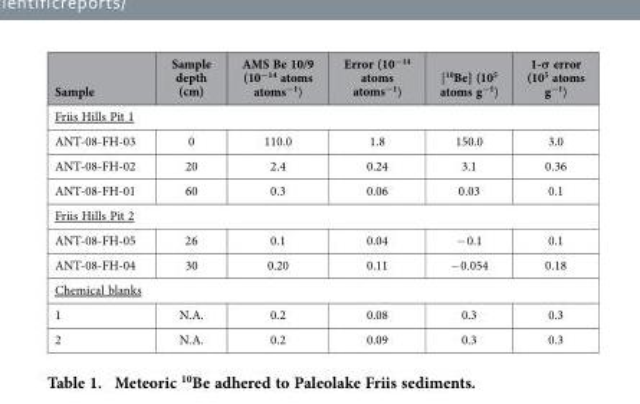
<table><thead><tr><td>Sample</td><td>Sample depth (cm)</td><td>AMS Be 10/9 (10<sup>−14</sup> atoms atoms<sup>−1</sup>)</td><td>Error (10<sup>−14</sup> atoms atoms<sup>−1</sup>)</td><td>[<sup>10</sup>Be] (10<sup>5</sup> atoms g<sup>−1</sup>)</td><td>1-σ error (10<sup>5</sup> atoms g<sup>−1</sup>)</td></tr></thead><tbody><tr><td colspan="6">Friis Hills Pit 1</td></tr><tr><td>ANT-08-FH-03</td><td>0</td><td>110.0</td><td>1.8</td><td>150.0</td><td>3.0</td></tr><tr><td>ANT-08-FH-02</td><td>20</td><td>2.4</td><td>0.24</td><td>3.1</td><td>0.36</td></tr><tr><td>ANT-08-FH-01</td><td>60</td><td>0.3</td><td>0.06</td><td>0.03</td><td>0.1</td></tr><tr><td colspan="6">Friis Hills Pit 2</td></tr><tr><td>ANT-08-FH-05</td><td>26</td><td>0.1</td><td>0.04</td><td>− 0.1</td><td>0.1</td></tr><tr><td>ANT-08-FH-04</td><td>30</td><td>0.20</td><td>0.11</td><td>− 0.054</td><td>0.18</td></tr><tr><td colspan="6">Chemical blanks</td></tr><tr><td>1</td><td>N.A.</td><td>0.2</td><td>0.08</td><td>0.3</td><td>0.3</td></tr><tr><td>2</td><td>N.A.</td><td>0.2</td><td>0.09</td><td>0.3</td><td>0.3</td></tr></tbody></table>